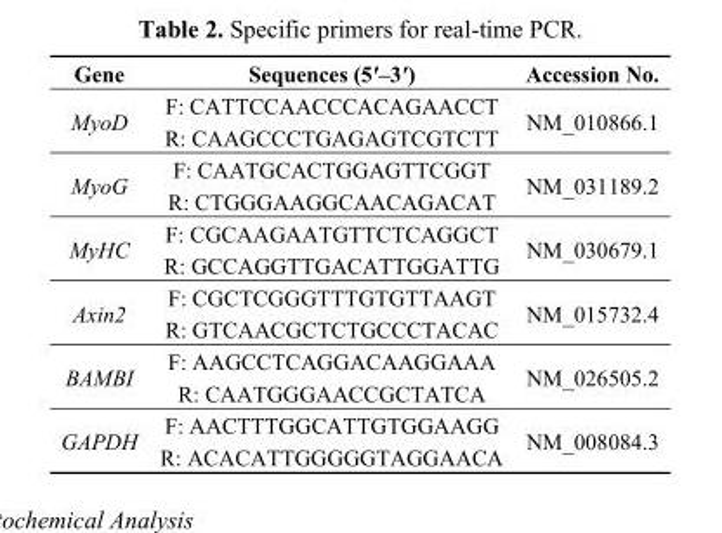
<table><thead><tr><td>Gene</td><td>Sequences (5′–3′)</td><td>Accession No.</td></tr></thead><tbody><tr><td rowspan="2">MyoD</td><td>F: CATTCCAACCCACAGAACCT</td><td rowspan="2">NM_010866.1</td></tr><tr><td>R: CAAGCCCTGAGAGTCGTCTT</td></tr><tr><td rowspan="2">MyoG</td><td>F: CAATGCACTGGAGTTCGGT</td><td rowspan="2">NM_031189.2</td></tr><tr><td>R: CTGGGAAGGCAACAGACAT</td></tr><tr><td rowspan="2">MyHC</td><td>F: CGCAAGAATGTTCTCAGGCT</td><td rowspan="2">NM_030679.1</td></tr><tr><td>R: GCCAGGTTGACATTGGATTG</td></tr><tr><td rowspan="2">Axin2</td><td>F: CGCTCGGGTTTGTGTTAAGT</td><td rowspan="2">NM_015732.4</td></tr><tr><td>R: GTCAACGCTCTGCCCTACAC</td></tr><tr><td rowspan="2">BAMBI</td><td>F: AAGCCTCAGGACAAGGAAA</td><td rowspan="2">NM_026505.2</td></tr><tr><td>R: CAATGGGAACCGCTATCA</td></tr><tr><td rowspan="2">GAPDH</td><td>F: AACTTTGGCATTGTGGAAGG</td><td rowspan="2">NM_008084.3</td></tr><tr><td>R: ACACATTGGGGGTAGGAACA</td></tr></tbody></table>